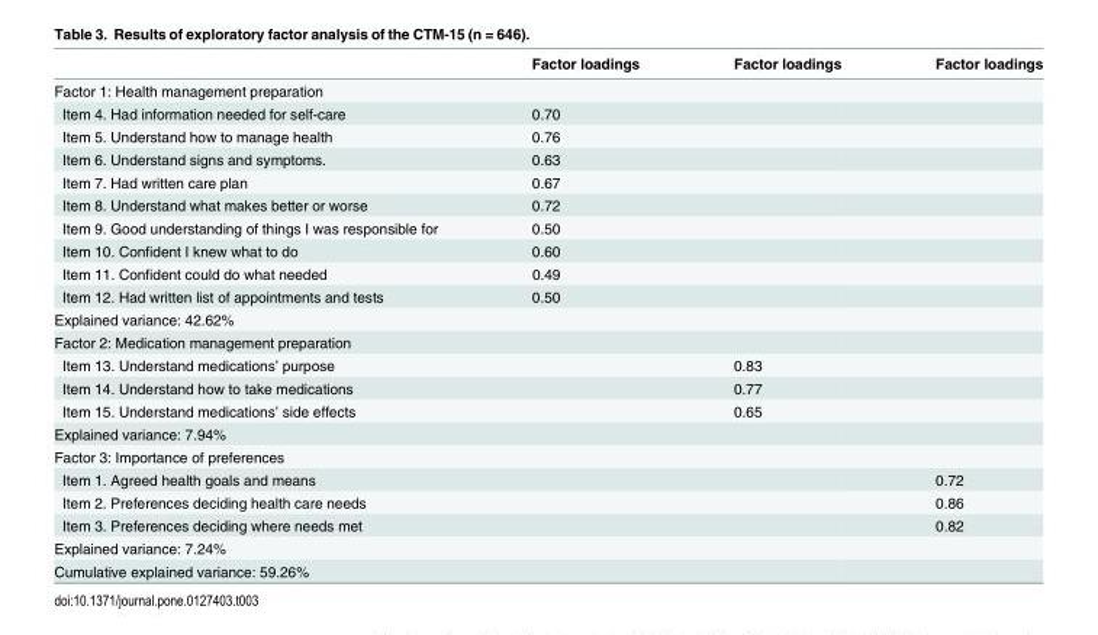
<table><thead><tr><td></td><td>Factor loadings</td><td>Factor loadings</td><td>Factor loadings</td></tr></thead><tbody><tr><td colspan="4">Factor 1: Health management preparation</td></tr><tr><td>Item 4. Had information needed for self-care</td><td>0.70</td><td></td><td></td></tr><tr><td>Item 5. Understand how to manage health</td><td>0.76</td><td></td><td></td></tr><tr><td>Item 6. Understand signs and symptoms.</td><td>0.63</td><td></td><td></td></tr><tr><td>Item 7. Had written care plan</td><td>0.67</td><td></td><td></td></tr><tr><td>Item 8. Understand what makes better or worse</td><td>0.72</td><td></td><td></td></tr><tr><td>Item 9. Good understanding of things I was responsible for</td><td>0.50</td><td></td><td></td></tr><tr><td>Item 10. Confident I knew what to do</td><td>0.60</td><td></td><td></td></tr><tr><td>Item 11. Confident could do what needed</td><td>0.49</td><td></td><td></td></tr><tr><td>Item 12. Had written list of appointments and tests</td><td>0.50</td><td></td><td></td></tr><tr><td colspan="4">Explained variance: 42.62%</td></tr><tr><td colspan="4">Factor 2: Medication management preparation</td></tr><tr><td>Item 13. Understand medications’ purpose</td><td></td><td>0.83</td><td></td></tr><tr><td>Item 14. Understand how to take medications</td><td></td><td>0.77</td><td></td></tr><tr><td>Item 15. Understand medications’ side effects</td><td></td><td>0.65</td><td></td></tr><tr><td colspan="4">Explained variance: 7.94%</td></tr><tr><td colspan="4">Factor 3: Importance of preferences</td></tr><tr><td>Item 1. Agreed health goals and means</td><td></td><td></td><td>0.72</td></tr><tr><td>Item 2. Preferences deciding health care needs</td><td></td><td></td><td>0.86</td></tr><tr><td>Item 3. Preferences deciding where needs met</td><td></td><td></td><td>0.82</td></tr><tr><td colspan="4">Explained variance: 7.24%</td></tr><tr><td>Cumulative explained variance: 59.26%</td><td></td><td></td><td></td></tr></tbody></table>